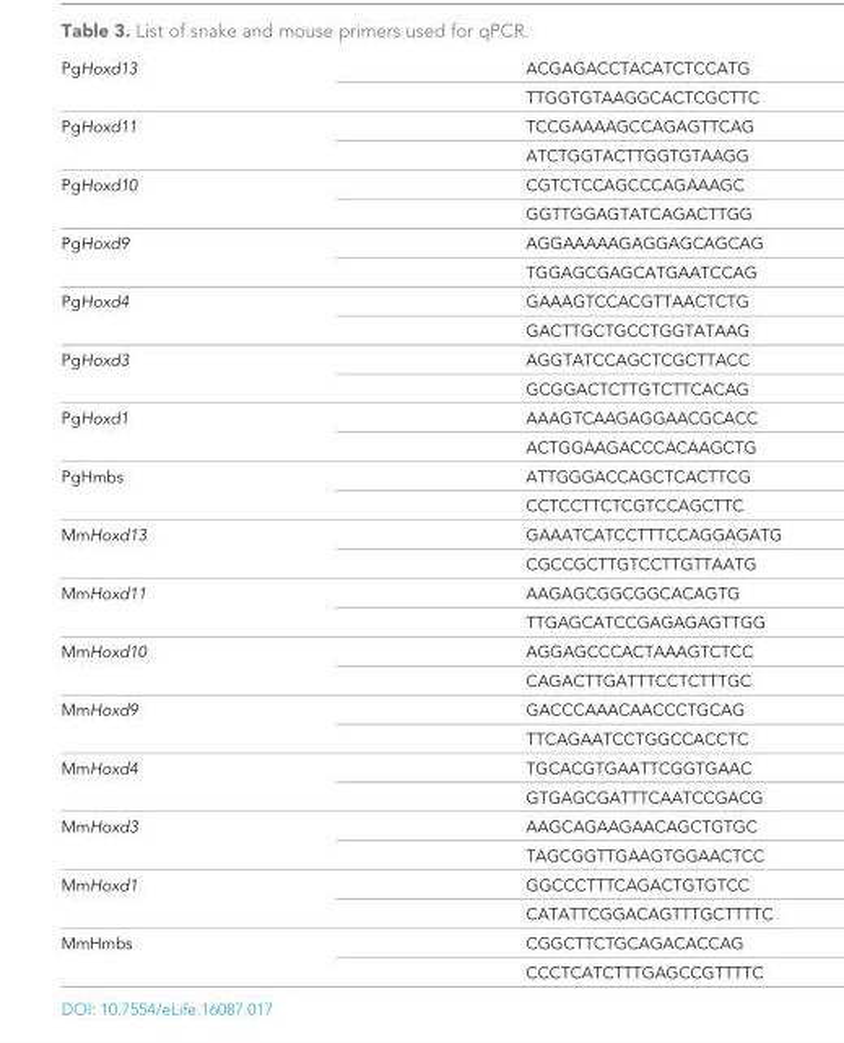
<table><tbody><tr><td rowspan="2">PgHoxd13</td><td>ACGAGACCTACATCTCCATG</td></tr><tr><td>TTGGTGTAAGGCACTCGCTTC</td></tr><tr><td rowspan="2">PgHoxd11</td><td>TCCGAAAAGCCAGAGTTCAG</td></tr><tr><td>ATCTGGTACTTGGTGTAAGG</td></tr><tr><td rowspan="2">PgHoxd10</td><td>CGTCTCCAGCCCAGAAAGC</td></tr><tr><td>GGTTGGAGTATCAGACTTGG</td></tr><tr><td rowspan="2">PgHoxd9</td><td>AGGAAAAAGAGGAGCAGCAG</td></tr><tr><td>TGGAGCGAGCATGAATCCAG</td></tr><tr><td rowspan="2">PgHoxd4</td><td>GAAAGTCCACGTTAACTCTG</td></tr><tr><td>GACTTGCTGCCTGGTATAAG</td></tr><tr><td rowspan="2">PgHoxd3</td><td>AGGTATCCAGCTCGCTTACC</td></tr><tr><td>GCGGACTCTTGTCTTCACAG</td></tr><tr><td rowspan="2">PgHoxd1</td><td>AAAGTCAAGAGGAACGCACC</td></tr><tr><td>ACTGGAAGACCCACAAGCTG</td></tr><tr><td rowspan="2">PgHmbs</td><td>ATTGGGACCAGCTCACTTCG</td></tr><tr><td>CCTCCTTCTCGTCCAGCTTC</td></tr><tr><td rowspan="2">MmHoxd13</td><td>GAAATCATCCTTTCCAGGAGATG</td></tr><tr><td>CGCCGCTTGTCCTTGTTAATG</td></tr><tr><td rowspan="2">MmHoxd11</td><td>AAGAGCGGCGGCACAGTG</td></tr><tr><td>TTGAGCATCCGAGAGAGTTGG</td></tr><tr><td rowspan="2">MmHoxd10</td><td>AGGAGCCCACTAAAGTCTCC</td></tr><tr><td>CAGACTTGATTTCCTCTTTGC</td></tr><tr><td rowspan="2">MmHoxd9</td><td>GACCCAAACAACCCTGCAG</td></tr><tr><td>TTCAGAATCCTGGCCACCTC</td></tr><tr><td rowspan="2">MmHoxd4</td><td>TGCACGTGAATTCGGTGAAC</td></tr><tr><td>GTGAGCGATTTCAATCCGACG</td></tr><tr><td rowspan="2">MmHoxd3</td><td>AAGCAGAAGAACAGCTGTGC</td></tr><tr><td>TAGCGGTTGAAGTGGAACTCC</td></tr><tr><td rowspan="2">MmHoxd1</td><td>GGCCCTTTCAGACTGTGTCC</td></tr><tr><td>CATATTCGGACAGTTTGCTTTTC</td></tr><tr><td rowspan="2">MmHmbs</td><td>CGGCTTCTGCAGACACCAG</td></tr><tr><td>CCCTCATCTTTGAGCCGTTTTC</td></tr></tbody></table>